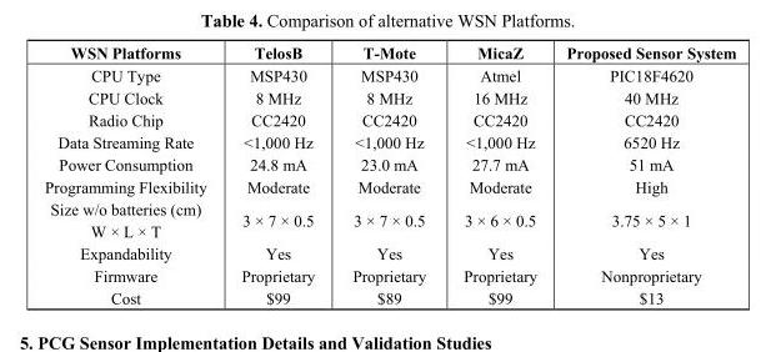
<table><thead><tr><td>WSN Platforms</td><td>TelosB</td><td>T-Mote</td><td>MicaZ</td><td>Proposed Sensor System</td></tr></thead><tbody><tr><td>CPU Type</td><td>MSP430</td><td>MSP430</td><td>Atmel</td><td>PIC18F4620</td></tr><tr><td>CPU Clock</td><td>8 MHz</td><td>8 MHz</td><td>16 MHz</td><td>40 MHz</td></tr><tr><td>Radio Chip</td><td>CC2420</td><td>CC2420</td><td>CC2420</td><td>CC2420</td></tr><tr><td>Data Streaming Rate</td><td>&lt;1,000 Hz</td><td>&lt;1,000 Hz</td><td>&lt;1,000 Hz</td><td>6520 Hz</td></tr><tr><td>Power Consumption</td><td>24.8 mA</td><td>23.0 mA</td><td>27.7 mA</td><td>51 mA</td></tr><tr><td>Programming Flexibility</td><td>Moderate</td><td>Moderate</td><td>Moderate</td><td>High</td></tr><tr><td>Size w/o batteries (cm) W × L × T</td><td>3 × 7 × 0.5</td><td>3 × 7 × 0.5</td><td>3 × 6 × 0.5</td><td>3.75 × 5 × 1</td></tr><tr><td>Expandability</td><td>Yes</td><td>Yes</td><td>Yes</td><td>Yes</td></tr><tr><td>Firmware</td><td>Proprietary</td><td>Proprietary</td><td>Proprietary</td><td>Nonproprietary</td></tr><tr><td>Cost</td><td>$99</td><td>$89</td><td>$99</td><td>$13</td></tr></tbody></table>